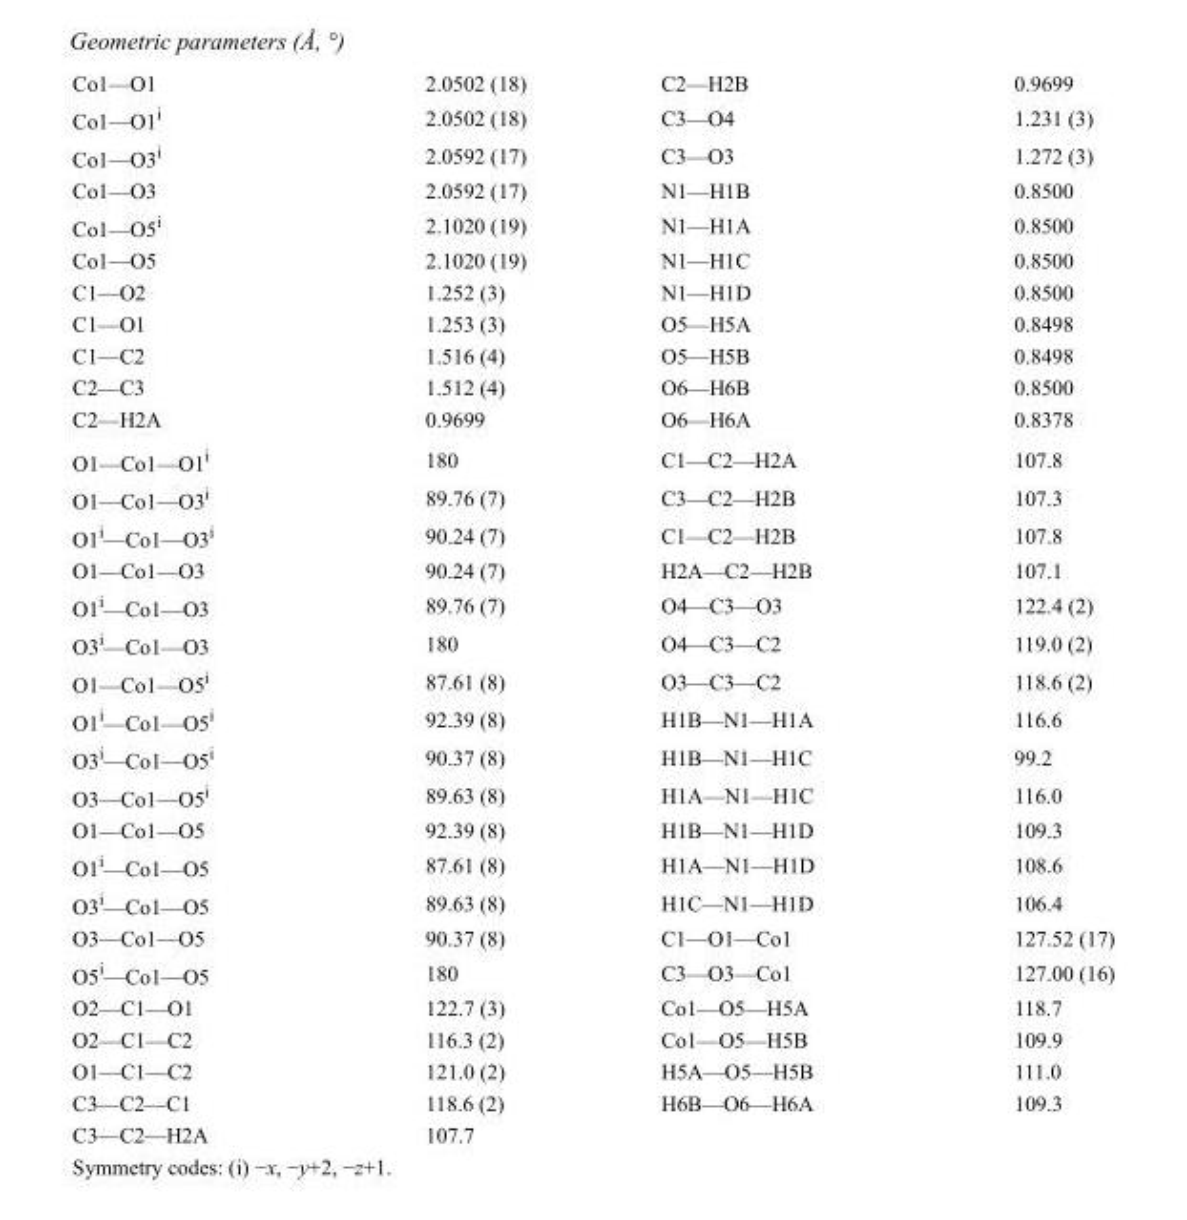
<table><tbody><tr><td>Co1—O1</td><td>2.0502 (18)</td><td>C2—H2B</td><td>0.9699</td></tr><tr><td>Co1—O1<sup>i</sup></td><td>2.0502 (18)</td><td>C3—O4</td><td>1.231 (3)</td></tr><tr><td>Co1—O3<sup>i</sup></td><td>2.0592 (17)</td><td>C3—O3</td><td>1.272 (3)</td></tr><tr><td>Co1—O3</td><td>2.0592 (17)</td><td>N1—H1B</td><td>0.8500</td></tr><tr><td>Co1—O5<sup>i</sup></td><td>2.1020 (19)</td><td>N1—H1A</td><td>0.8500</td></tr><tr><td>Co1—O5</td><td>2.1020 (19)</td><td>N1—H1C</td><td>0.8500</td></tr><tr><td>C1—O2</td><td>1.252 (3)</td><td>N1—H1D</td><td>0.8500</td></tr><tr><td>C1—O1</td><td>1.253 (3)</td><td>O5—H5A</td><td>0.8498</td></tr><tr><td>C1—C2</td><td>1.516 (4)</td><td>O5—H5B</td><td>0.8498</td></tr><tr><td>C2—C3</td><td>1.512 (4)</td><td>O6—H6B</td><td>0.8500</td></tr><tr><td>C2—H2A</td><td>0.9699</td><td>O6—H6A</td><td>0.8378</td></tr><tr><td>O1—Co1—O1<sup>i</sup></td><td>180</td><td>C1—C2—H2A</td><td>107.8</td></tr><tr><td>O1—Co1—O3<sup>i</sup></td><td>89.76 (7)</td><td>C3—C2—H2B</td><td>107.3</td></tr><tr><td>O1<sup>i</sup>—Co1—O3<sup>i</sup></td><td>90.24 (7)</td><td>C1—C2—H2B</td><td>107.8</td></tr><tr><td>O1—Co1—O3</td><td>90.24 (7)</td><td>H2A—C2—H2B</td><td>107.1</td></tr><tr><td>O1<sup>i</sup>—Co1—O3</td><td>89.76 (7)</td><td>O4—C3—O3</td><td>122.4 (2)</td></tr><tr><td>O3<sup>i</sup>—Co1—O3</td><td>180</td><td>O4—C3—C2</td><td>119.0 (2)</td></tr><tr><td>O1—Co1—O5<sup>i</sup></td><td>87.61 (8)</td><td>O3—C3—C2</td><td>118.6 (2)</td></tr><tr><td>O1<sup>i</sup>—Co1—O5<sup>i</sup></td><td>92.39 (8)</td><td>H1B—N1—H1A</td><td>116.6</td></tr><tr><td>O3<sup>i</sup>—Co1—O5<sup>i</sup></td><td>90.37 (8)</td><td>H1B—N1—H1C</td><td>99.2</td></tr><tr><td>O3—Co1—O5<sup>i</sup></td><td>89.63 (8)</td><td>H1A—N1—H1C</td><td>116.0</td></tr><tr><td>O1—Co1—O5</td><td>92.39 (8)</td><td>H1B—N1—H1D</td><td>109.3</td></tr><tr><td>O1<sup>i</sup>—Co1—O5</td><td>87.61 (8)</td><td>H1A—N1—H1D</td><td>108.6</td></tr><tr><td>O3<sup>i</sup>—Co1—O5</td><td>89.63 (8)</td><td>H1C—N1—H1D</td><td>106.4</td></tr><tr><td>O3—Co1—O5</td><td>90.37 (8)</td><td>C1—O1—Co1</td><td>127.52 (17)</td></tr><tr><td>O5<sup>i</sup>—Co1—O5</td><td>180</td><td>C3—O3—Co1</td><td>127.00 (16)</td></tr><tr><td>O2—C1—O1</td><td>122.7 (3)</td><td>Co1—O5—H5A</td><td>118.7</td></tr><tr><td>O2—C1—C2</td><td>116.3 (2)</td><td>Co1—O5—H5B</td><td>109.9</td></tr><tr><td>O1—C1—C2</td><td>121.0 (2)</td><td>H5A—O5—H5B</td><td>111.0</td></tr><tr><td>C3—C2—C1</td><td>118.6 (2)</td><td>H6B—O6—H6A</td><td>109.3</td></tr><tr><td>C3—C2—H2A</td><td>107.7</td><td></td><td></td></tr></tbody></table>